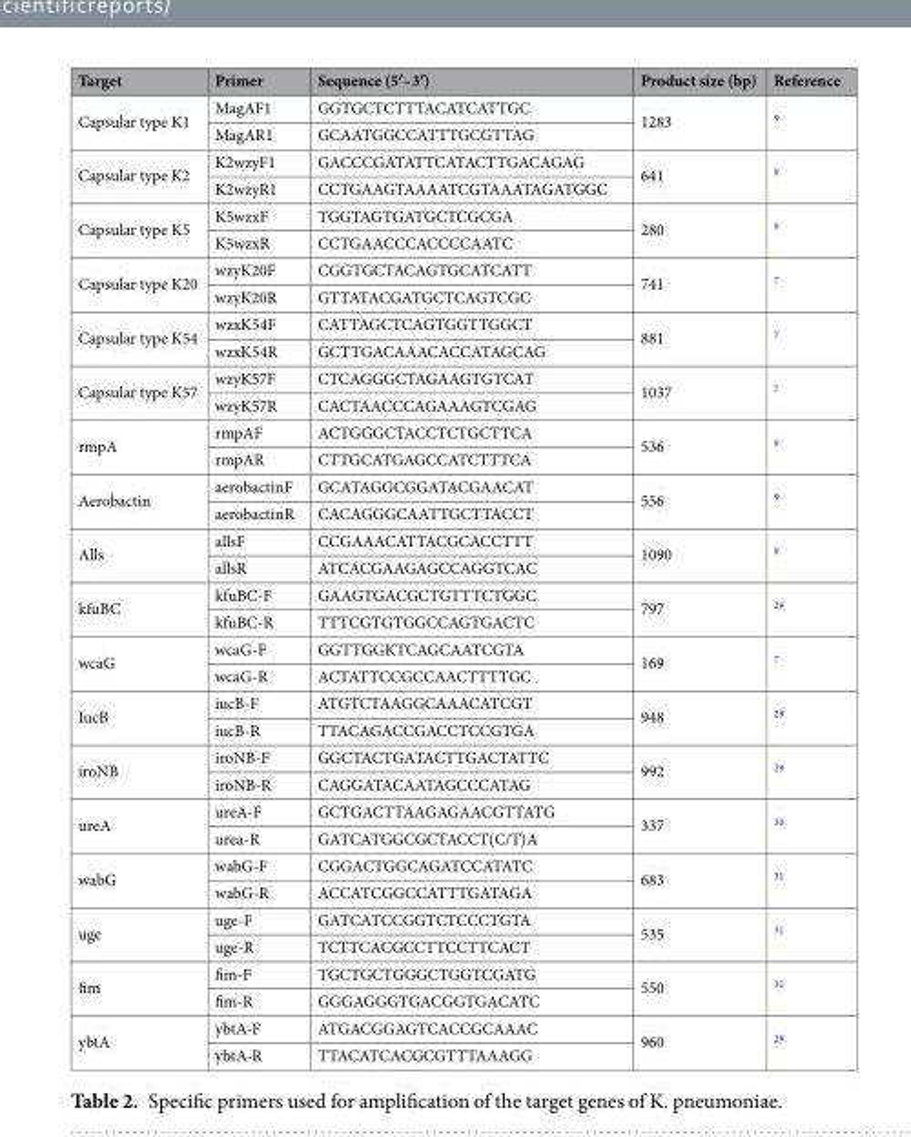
<table><thead><tr><td>Target</td><td>Primer</td><td>Sequence (5′–3′)</td><td>Product size (bp)</td><td>Reference</td></tr></thead><tbody><tr><td rowspan="2">Capsular type K1</td><td>MagAF1</td><td>GGTGCTCTTTACATCATTGC</td><td rowspan="2">1283</td><td rowspan="2"><sup>9</sup></td></tr><tr><td>MagAR1</td><td>GCAATGGCCATTTGCGTTAG</td></tr><tr><td rowspan="2">Capsular type K2</td><td>K2wzyF1</td><td>GACCCGATATTCATACTTGACAGAG</td><td rowspan="2">641</td><td rowspan="2"><sup>9</sup></td></tr><tr><td>K2wzyR1</td><td>CCTGAAGTAAAATCGTAAATAGATGGC</td></tr><tr><td rowspan="2">Capsular type K5</td><td>K5wzxF</td><td>TGGTAGTGATGCTCGCGA</td><td rowspan="2">280</td><td rowspan="2"><sup>9</sup></td></tr><tr><td>K5wzxR</td><td>CCTGAACCCACCCCAATC</td></tr><tr><td rowspan="2">Capsular type K20</td><td>wzyK20F</td><td>CGGTGCTACAGTGCATCATT</td><td rowspan="2">741</td><td rowspan="2"><sup>7</sup></td></tr><tr><td>wzyK20R</td><td>GTTATACGATGCTCAGTCGC</td></tr><tr><td rowspan="2">Capsular type K54</td><td>wzxK54F</td><td>CATTAGCTCAGTGGTTGGCT</td><td rowspan="2">881</td><td rowspan="2"><sup>7</sup></td></tr><tr><td>wzxK54R</td><td>GCTTGACAAACACCATAGCAG</td></tr><tr><td rowspan="2">Capsular type K57</td><td>wzyK57F</td><td>CTCAGGGCTAGAAGTGTCAT</td><td rowspan="2">1037</td><td rowspan="2"><sup>7</sup></td></tr><tr><td>wzyK57R</td><td>CACTAACCCAGAAAGTCGAG</td></tr><tr><td rowspan="2">rmpA</td><td>rmpAF</td><td>ACTGGGCTACCTCTGCTTCA</td><td rowspan="2">536</td><td rowspan="2"><sup>9</sup></td></tr><tr><td>rmpAR</td><td>CTTGCATGAGCCATCTTTCA</td></tr><tr><td rowspan="2">Aerobactin</td><td>aerobactinF</td><td>GCATAGGCGGATACGAACAT</td><td rowspan="2">556</td><td rowspan="2"><sup>9</sup></td></tr><tr><td>aerobactinR</td><td>CACAGGGCAATTGCTTACCT</td></tr><tr><td rowspan="2">Alls</td><td>allsF</td><td>CCGAAACATTACGCACCTTT</td><td rowspan="2">1090</td><td rowspan="2"><sup>9</sup></td></tr><tr><td>allsR</td><td>ATCACGAAGAGCCAGGTCAC</td></tr><tr><td rowspan="2">kfuBC</td><td>kfuBC-F</td><td>GAAGTGACGCTGTTTCTGGC</td><td rowspan="2">797</td><td rowspan="2"><sup>29</sup></td></tr><tr><td>kfuBC-R</td><td>TTTCGTGTGGCCAGTGACTC</td></tr><tr><td rowspan="2">wcaG</td><td>wcaG-F</td><td>GGTTGGKTCAGCAATCGTA</td><td rowspan="2">169</td><td rowspan="2"><sup>7</sup></td></tr><tr><td>wcaG-R</td><td>ACTATTCCGCCAACTTTTGC</td></tr><tr><td rowspan="2">IucB</td><td>iucB-F</td><td>ATGTCTAAGGCAAACATCGT</td><td rowspan="2">948</td><td rowspan="2"><sup>29</sup></td></tr><tr><td>iucB-R</td><td>TTACAGACCGACCTCCGTGA</td></tr><tr><td rowspan="2">iroNB</td><td>iroNB-F</td><td>GGCTACTGATACTTGACTATTC</td><td rowspan="2">992</td><td rowspan="2"><sup>29</sup></td></tr><tr><td>iroNB-R</td><td>CAGGATACAATAGCCCATAG</td></tr><tr><td rowspan="2">ureA</td><td>ureA-F</td><td>GCTGACTTAAGAGAACGTTATG</td><td rowspan="2">337</td><td rowspan="2"><sup>30</sup></td></tr><tr><td>urea-R</td><td>GATCATGGCGCTACCT(C/T)A</td></tr><tr><td rowspan="2">wabG</td><td>wabG-F</td><td>CGGACTGGCAGATCCATATC</td><td rowspan="2">683</td><td rowspan="2"><sup>31</sup></td></tr><tr><td>wabG-R</td><td>ACCATCGGCCATTTGATAGA</td></tr><tr><td rowspan="2">uge</td><td>uge-F</td><td>GATCATCCGGTCTCCCTGTA</td><td rowspan="2">535</td><td rowspan="2"><sup>31</sup></td></tr><tr><td>uge-R</td><td>TCTTCACGCCTTCCTTCACT</td></tr><tr><td rowspan="2">fim</td><td>fim-F</td><td>TGCTGCTGGGCTGGTCGATG</td><td rowspan="2">550</td><td rowspan="2"><sup>31</sup></td></tr><tr><td>fim-R</td><td>GGGAGGGTGACGGTGACATC</td></tr><tr><td rowspan="2">ybtA</td><td>ybtA-F</td><td>ATGACGGAGTCACCGCAAAC</td><td rowspan="2">960</td><td rowspan="2"><sup>29</sup></td></tr><tr><td>ybtA-R</td><td>TTACATCACGCGTTTAAAGG</td></tr></tbody></table>